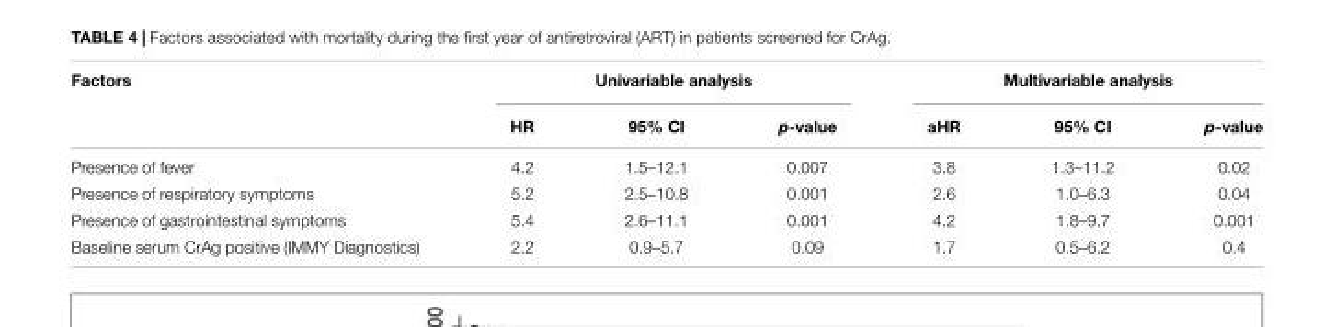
<table><thead><tr><td rowspan="2">Factors</td><td colspan="3">Univariable analysis</td><td colspan="3">Multivariable analysis</td></tr><tr><td>HR</td><td>95% CI</td><td>p-value</td><td>aHR</td><td>95% CI</td><td>p-value</td></tr></thead><tbody><tr><td>Presence of fever</td><td>4.2</td><td>1.5–12.1</td><td>0.007</td><td>3.8</td><td>1.3–11.2</td><td>0.02</td></tr><tr><td>Presence of respiratory symptoms</td><td>5.2</td><td>2.5–10.8</td><td>0.001</td><td>2.6</td><td>1.0–6.3</td><td>0.04</td></tr><tr><td>Presence of gastrointestinal symptoms</td><td>5.4</td><td>2.6–11.1</td><td>0.001</td><td>4.2</td><td>1.8–9.7</td><td>0.001</td></tr><tr><td>Baseline serum CrAg positive (IMMY Diagnostics)</td><td>2.2</td><td>0.9–5.7</td><td>0.09</td><td>1.7</td><td>0.5–6.2</td><td>0.4</td></tr></tbody></table>